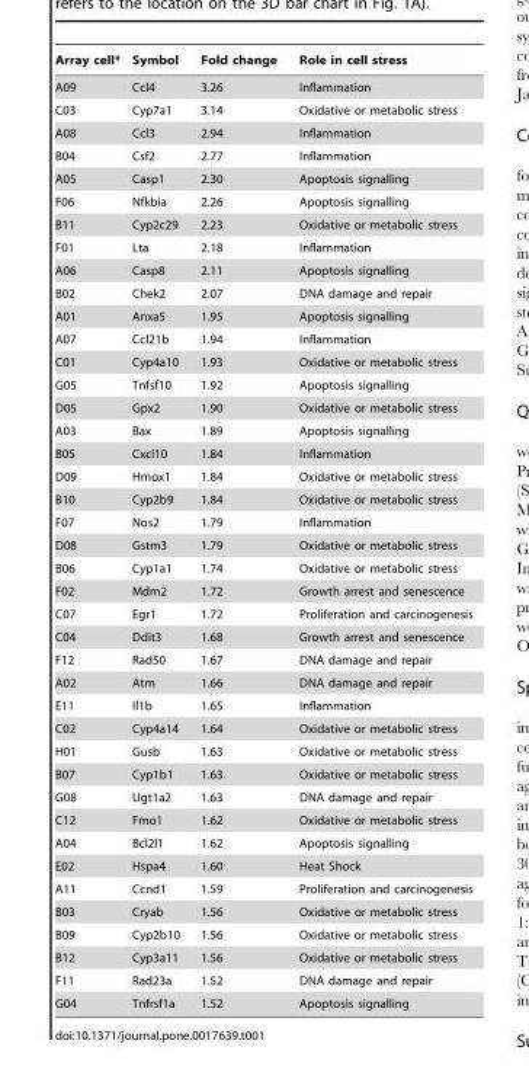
<table><thead><tr><td>Array cell*</td><td>Symbol</td><td>Fold change</td><td>Role in cell stress</td></tr></thead><tbody><tr><td>A09</td><td>Ccl4</td><td>3.26</td><td>Inflammation</td></tr><tr><td>C03</td><td>Cyp7a1</td><td>3.14</td><td>Oxidative or metabolic stress</td></tr><tr><td>A08</td><td>Ccl3</td><td>2.94</td><td>Inflammation</td></tr><tr><td>B04</td><td>Csf2</td><td>2.77</td><td>Inflammation</td></tr><tr><td>A05</td><td>Casp1</td><td>2.30</td><td>Apoptosis signalling</td></tr><tr><td>F06</td><td>Nfkbia</td><td>2.26</td><td>Apoptosis signalling</td></tr><tr><td>B11</td><td>Cyp2c29</td><td>2.23</td><td>Oxidative or metabolic stress</td></tr><tr><td>F01</td><td>Lta</td><td>2.18</td><td>Inflammation</td></tr><tr><td>A06</td><td>Casp8</td><td>2.11</td><td>Apoptosis signalling</td></tr><tr><td>B02</td><td>Chek2</td><td>2.07</td><td>DNA damage and repair</td></tr><tr><td>A01</td><td>Anxa5</td><td>1.95</td><td>Apoptosis signalling</td></tr><tr><td>A07</td><td>Ccl21b</td><td>1.94</td><td>Inflammation</td></tr><tr><td>C01</td><td>Cyp4a10</td><td>1.93</td><td>Oxidative or metabolic stress</td></tr><tr><td>G05</td><td>Tnfsf10</td><td>1.92</td><td>Apoptosis signalling</td></tr><tr><td>D05</td><td>Gpx2</td><td>1.90</td><td>Oxidative or metabolic stress</td></tr><tr><td>A03</td><td>Bax</td><td>1.89</td><td>Apoptosis signalling</td></tr><tr><td>B05</td><td>Cxcl10</td><td>1.84</td><td>Inflammation</td></tr><tr><td>D09</td><td>Hmox1</td><td>1.84</td><td>Oxidative or metabolic stress</td></tr><tr><td>B10</td><td>Cyp2b9</td><td>1.84</td><td>Oxidative or metabolic stress</td></tr><tr><td>F07</td><td>Nos2</td><td>1.79</td><td>Inflammation</td></tr><tr><td>D08</td><td>Gstm3</td><td>1.79</td><td>Oxidative or metabolic stress</td></tr><tr><td>B06</td><td>Cyp1a1</td><td>1.74</td><td>Oxidative or metabolic stress</td></tr><tr><td>F02</td><td>Mdm2</td><td>1.72</td><td>Growth arrest and senescence</td></tr><tr><td>C07</td><td>Egr1</td><td>1.72</td><td>Proliferation and carcinogenesis</td></tr><tr><td>C04</td><td>Ddit3</td><td>1.68</td><td>Growth arrest and senescence</td></tr><tr><td>F12</td><td>Rad50</td><td>1.67</td><td>DNA damage and repair</td></tr><tr><td>A02</td><td>Atm</td><td>1.66</td><td>DNA damage and repair</td></tr><tr><td>E11</td><td>Il1b</td><td>1.65</td><td>Inflammation</td></tr><tr><td>C02</td><td>Cyp4a14</td><td>1.64</td><td>Oxidative or metabolic stress</td></tr><tr><td>H01</td><td>Gusb</td><td>1.63</td><td>Oxidative or metabolic stress</td></tr><tr><td>B07</td><td>Cyp1b1</td><td>1.63</td><td>Oxidative or metabolic stress</td></tr><tr><td>G08</td><td>Ugt1a2</td><td>1.63</td><td>DNA damage and repair</td></tr><tr><td>C12</td><td>Fmo1</td><td>1.62</td><td>Oxidative or metabolic stress</td></tr><tr><td>A04</td><td>Bcl2l1</td><td>1.62</td><td>Apoptosis signalling</td></tr><tr><td>E02</td><td>Hspa4</td><td>1.60</td><td>Heat Shock</td></tr><tr><td>A11</td><td>Ccnd1</td><td>1.59</td><td>Proliferation and carcinogenesis</td></tr><tr><td>B03</td><td>Cryab</td><td>1.56</td><td>Oxidative or metabolic stress</td></tr><tr><td>B09</td><td>Cyp2b10</td><td>1.56</td><td>Oxidative or metabolic stress</td></tr><tr><td>B12</td><td>Cyp3a11</td><td>1.56</td><td>Oxidative or metabolic stress</td></tr><tr><td>F11</td><td>Rad23a</td><td>1.52</td><td>DNA damage and repair</td></tr><tr><td>G04</td><td>Tnfrsf1a</td><td>1.52</td><td>Apoptosis signalling</td></tr></tbody></table>